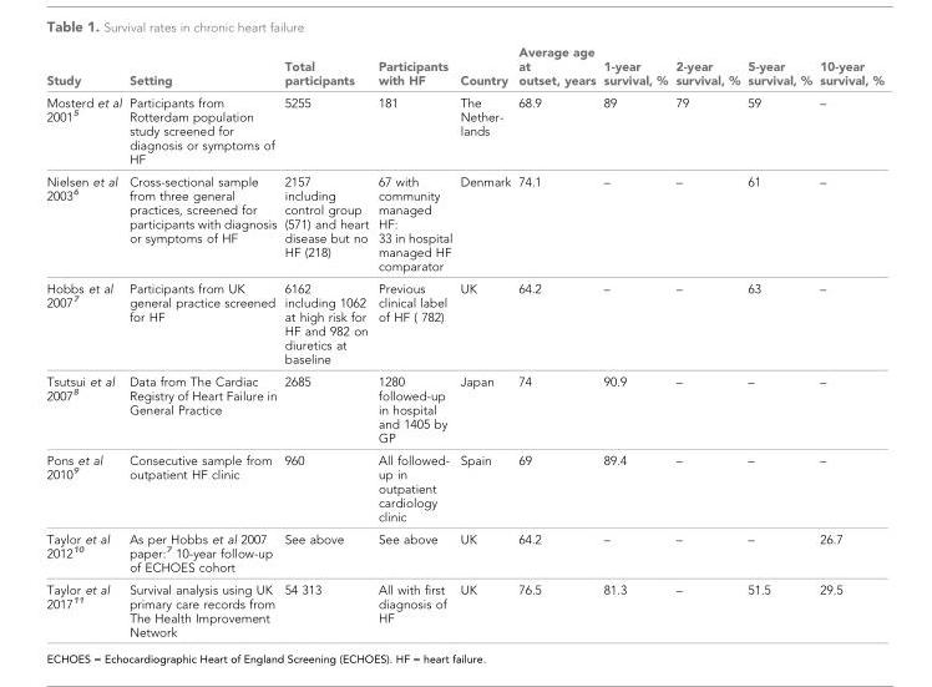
<table><thead><tr><td>Study</td><td>Setting</td><td>Total participants</td><td>Participants with HF</td><td>Country</td><td>Average age at outset, years</td><td>1-year survival, %</td><td>2-year survival, %</td><td>5-year survival, %</td><td>10-year survival, %</td></tr></thead><tbody><tr><td>Mosterd et al 2001<sup>5</sup></td><td>Participants from Rotterdam population study screened for diagnosis or symptoms of HF</td><td>5255</td><td>181</td><td>The Nether- lands</td><td>68.9</td><td>89</td><td>79</td><td>59</td><td>–</td></tr><tr><td>Nielsen et al 2003<sup>6</sup></td><td>Cross-sectional sample from three general practices, screened for participants with diagnosis or symptoms of HF</td><td>2157 including control group (571) and heart disease but no HF (218)</td><td>67 with community managed HF: 33 in hospital managed HF comparator</td><td>Denmark</td><td>74.1</td><td>–</td><td>–</td><td>61</td><td>–</td></tr><tr><td>Hobbs et al 2007<sup>7</sup></td><td>Participants from UK general practice screened for HF</td><td>6162 including 1062 at high risk for HF and 982 on diuretics at baseline</td><td>Previous clinical label of HF ( 782)</td><td>UK</td><td>64.2</td><td>–</td><td>–</td><td>63</td><td>–</td></tr><tr><td>Tsutsui et al 2007<sup>8</sup></td><td>Data from The Cardiac Registry of Heart Failure in General Practice</td><td>2685</td><td>1280 followed-up in hospital and 1405 by GP</td><td>Japan</td><td>74</td><td>90.9</td><td>–</td><td>–</td><td>–</td></tr><tr><td>Pons et al 2010<sup>9</sup></td><td>Consecutive sample from outpatient HF clinic</td><td>960</td><td>All followed- up in outpatient cardiology clinic</td><td>Spain</td><td>69</td><td>89.4</td><td>–</td><td>–</td><td>–</td></tr><tr><td>Taylor et al 2012<sup>10</sup></td><td>As per Hobbs et al 2007 paper:<sup>7</sup> 10-year follow-up of ECHOES cohort</td><td>See above</td><td>See above</td><td>UK</td><td>64.2</td><td>–</td><td>–</td><td>–</td><td>26.7</td></tr><tr><td>Taylor et al 2017<sup>11</sup></td><td>Survival analysis using UK primary care records from The Health Improvement Network</td><td>54 313</td><td>All with first diagnosis of HF</td><td>UK</td><td>76.5</td><td>81.3</td><td>–</td><td>51.5</td><td>29.5</td></tr></tbody></table>